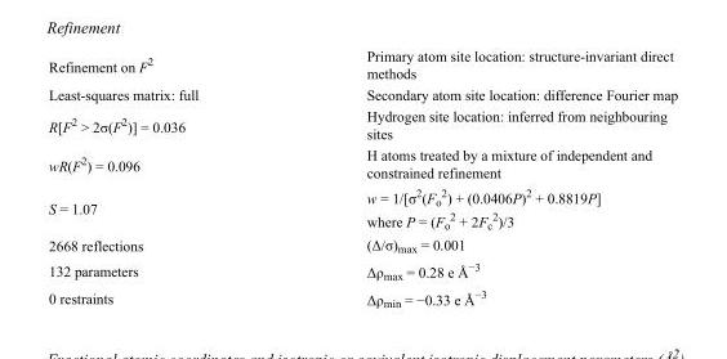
<table><tbody><tr><td>Refinement on F<sup>2</sup></td><td>Primary atom site location: structure-invariant direct methods</td></tr><tr><td>Least-squares matrix: full</td><td>Secondary atom site location: difference Fourier map</td></tr><tr><td>R[F<sup>2</sup> &gt; 2σ(F<sup>2</sup>)] = 0.036</td><td>Hydrogen site location: inferred from neighbouring sites</td></tr><tr><td>wR(F<sup>2</sup>) = 0.096</td><td>H atoms treated by a mixture of independent and constrained refinement</td></tr><tr><td>S = 1.07</td><td>w = 1/[σ<sup>2</sup>(F<sub>o</sub> <sup>2</sup>) + (0.0406P)<sup>2</sup> + 0.8819P] where P = (F<sub>o</sub> <sup>2</sup> + 2F<sub>c</sub> <sup>2</sup>)/3</td></tr><tr><td>2668 reflections</td><td>(Δ/σ)<sub>max</sub> = 0.001</td></tr><tr><td>132 parameters</td><td>Δρ<sub>max</sub> = 0.28 e Å<sup>−3</sup></td></tr><tr><td>0 restraints</td><td>Δρ<sub>min</sub> = −0.33 e Å<sup>−3</sup></td></tr></tbody></table>